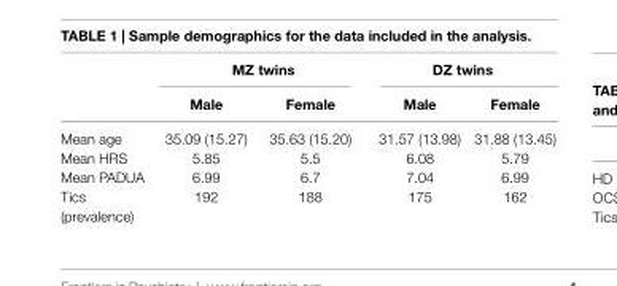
<table><thead><tr><td rowspan="2"></td><td colspan="2">MZ twins</td><td colspan="2">DZ twins</td></tr><tr><td>Male</td><td>Female</td><td>Male</td><td>Female</td></tr></thead><tbody><tr><td>Mean age</td><td>35.09 (15.27)</td><td>35.63 (15.20)</td><td>31.57 (13.98)</td><td>31.88 (13.45)</td></tr><tr><td>Mean HRS</td><td>5.85</td><td>5.5</td><td>6.08</td><td>5.79</td></tr><tr><td>Mean PADUA</td><td>6.99</td><td>6.7</td><td>7.04</td><td>6.99</td></tr><tr><td>Tics (prevalence)</td><td>192</td><td>188</td><td>175</td><td>162</td></tr></tbody></table>